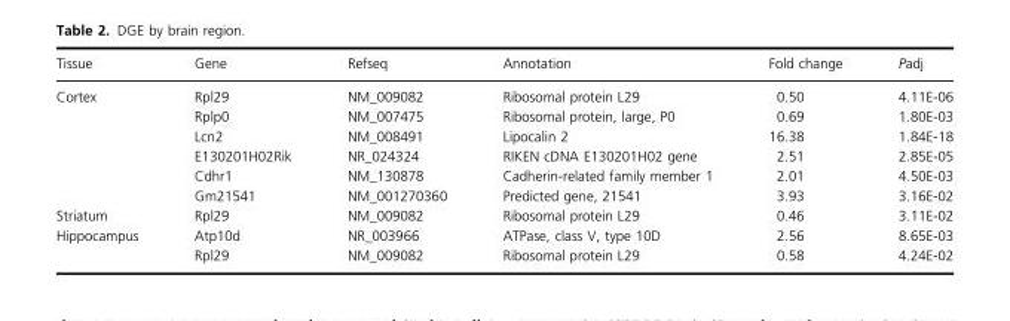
<table><thead><tr><td>Tissue</td><td>Gene</td><td>Refseq</td><td>Annotation</td><td>Fold change</td><td>Padj</td></tr></thead><tbody><tr><td rowspan="6">Cortex</td><td>Rpl29</td><td>NM_009082</td><td>Ribosomal protein L29</td><td>0.50</td><td>4.11E-06</td></tr><tr><td>Rplp0</td><td>NM_007475</td><td>Ribosomal protein, large, P0</td><td>0.69</td><td>1.80E-03</td></tr><tr><td>Lcn2</td><td>NM_008491</td><td>Lipocalin 2</td><td>16.38</td><td>1.84E-18</td></tr><tr><td>E130201H02Rik</td><td>NR_024324</td><td>RIKEN cDNA E130201H02 gene</td><td>2.51</td><td>2.85E-05</td></tr><tr><td>Cdhr1</td><td>NM_130878</td><td>Cadherin-related family member 1</td><td>2.01</td><td>4.50E-03</td></tr><tr><td>Gm21541</td><td>NM_001270360</td><td>Predicted gene, 21541</td><td>3.93</td><td>3.16E-02</td></tr><tr><td>Striatum</td><td>Rpl29</td><td>NM_009082</td><td>Ribosomal protein L29</td><td>0.46</td><td>3.11E-02</td></tr><tr><td rowspan="2">Hippocampus</td><td>Atp10d</td><td>NR_003966</td><td>ATPase, class V, type 10D</td><td>2.56</td><td>8.65E-03</td></tr><tr><td>Rpl29</td><td>NM_009082</td><td>Ribosomal protein L29</td><td>0.58</td><td>4.24E-02</td></tr></tbody></table>